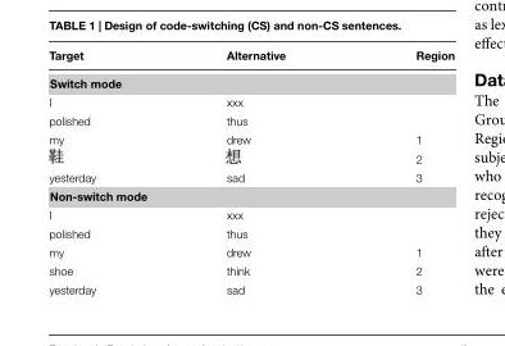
<table><thead><tr><td>Target</td><td>Alternative</td><td>Region</td></tr></thead><tbody><tr><td colspan="3">Switch mode</td></tr><tr><td>I</td><td>xxx</td><td></td></tr><tr><td>polished</td><td>thus</td><td></td></tr><tr><td rowspan="2">my</td><td>drew</td><td>1</td></tr><tr><td></td><td>2</td></tr><tr><td>yesterday</td><td>sad</td><td>3</td></tr><tr><td colspan="3">Non-switch mode</td></tr><tr><td>I</td><td>xxx</td><td></td></tr><tr><td>polished</td><td>thus</td><td></td></tr><tr><td>my</td><td>drew</td><td>1</td></tr><tr><td>shoe</td><td>think</td><td>2</td></tr><tr><td>yesterday</td><td>sad</td><td>3</td></tr></tbody></table>